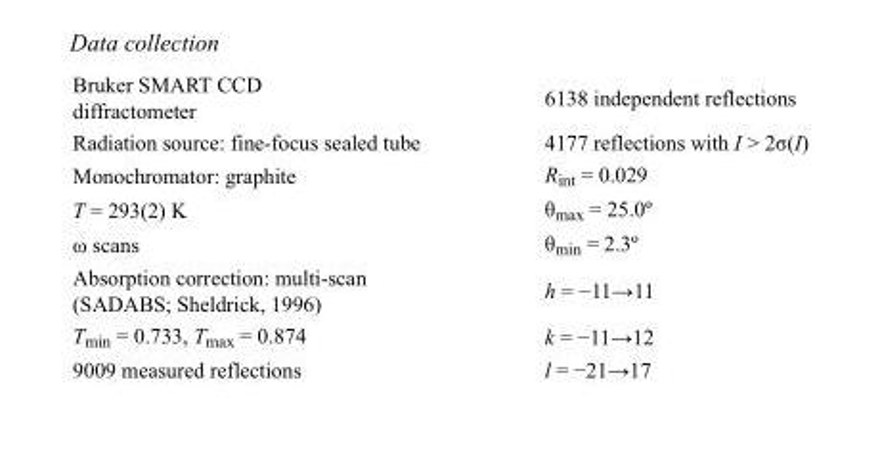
<table><tbody><tr><td>Bruker SMART CCD diffractometer</td><td>6138 independent reflections</td></tr><tr><td>Radiation source: fine-focus sealed tube</td><td>4177 reflections with I &gt; 2σ(I)</td></tr><tr><td>Monochromator: graphite</td><td>R<sub>int</sub> = 0.029</td></tr><tr><td>T = 293(2) K</td><td>θ<sub>max</sub> = 25.0º</td></tr><tr><td>ω scans</td><td>θ<sub>min</sub> = 2.3º</td></tr><tr><td>Absorption correction: multi-scan (SADABS; Sheldrick, 1996)</td><td>h = −11→11</td></tr><tr><td>T<sub>min</sub> = 0.733, T<sub>max</sub> = 0.874</td><td>k = −11→12</td></tr><tr><td>9009 measured reflections</td><td>l = −21→17</td></tr></tbody></table>